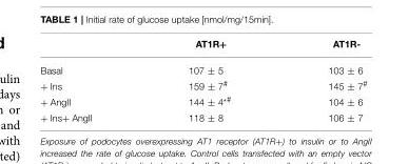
<table><thead><tr><td></td><td>AT1R+</td><td>AT1R-</td></tr></thead><tbody><tr><td>Basal</td><td>107 ± 5</td><td>103 ± 6</td></tr><tr><td>+ Ins</td><td>159 ± 7<sup>#</sup></td><td>145 ± 7<sup>#</sup></td></tr><tr><td>+ AngII</td><td>144 ± 4<sup>*#</sup></td><td>104 ± 6</td></tr><tr><td>+ Ins+ AngII</td><td>118 ± 8</td><td>106 ± 7</td></tr></tbody></table>